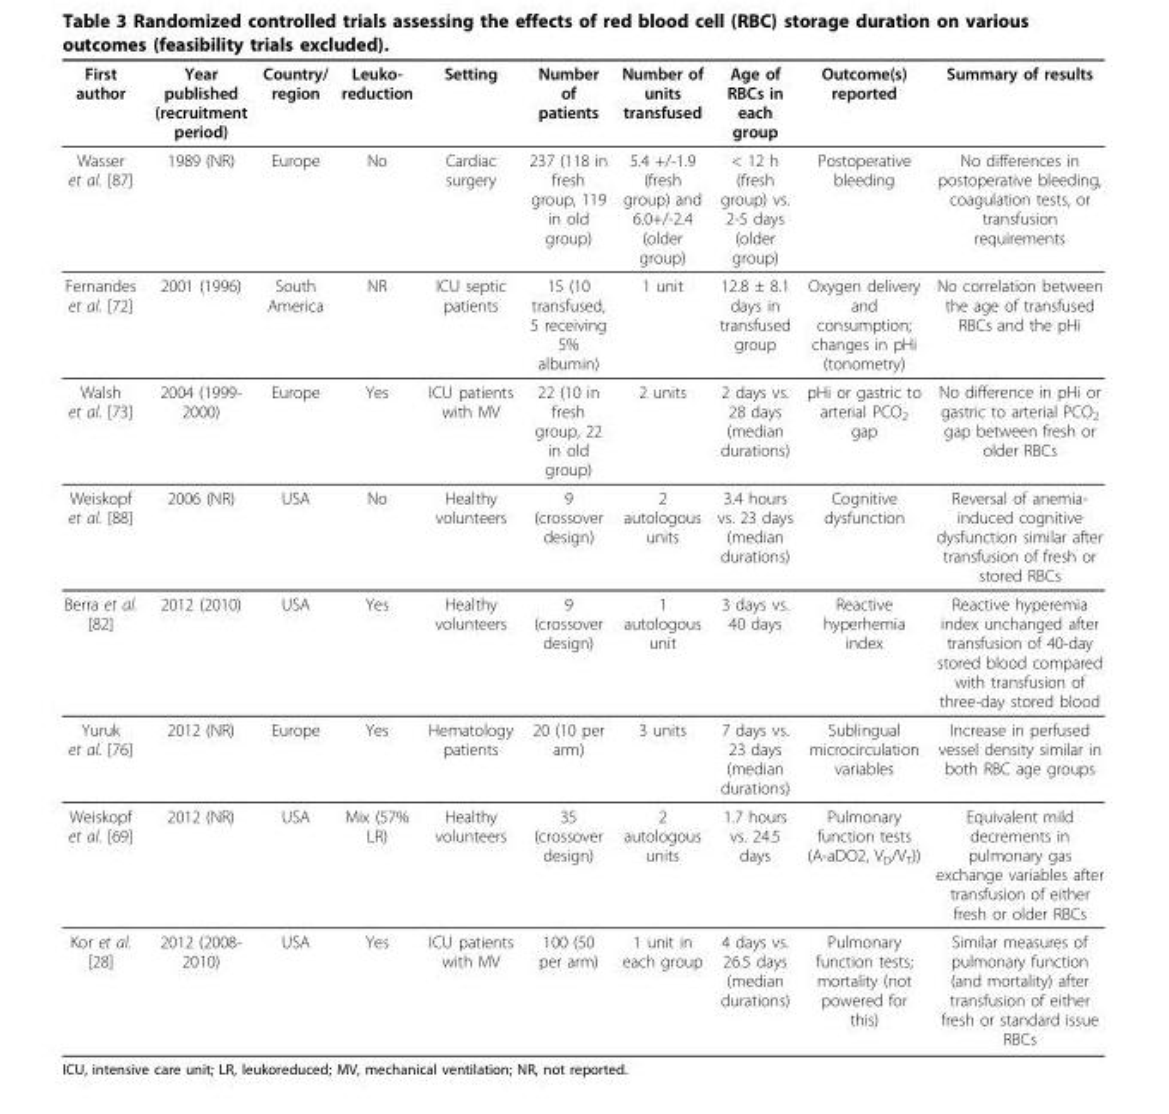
<table><thead><tr><td>First author</td><td>Year published (recruitment period)</td><td>Country/ region</td><td>Leuko- reduction</td><td>Setting</td><td>Number of patients</td><td>Number of units transfused</td><td>Age of RBCs in each group</td><td>Outcome(s) reported</td><td>Summary of results</td></tr></thead><tbody><tr><td>Wasser et al. [87]</td><td>1989 (NR)</td><td>Europe</td><td>No</td><td>Cardiac surgery</td><td>237 (118 in fresh group, 119 in old group)</td><td>5.4 +/-1.9 (fresh group) and 6.0+/-2.4 (older group)</td><td>&lt; 12 h (fresh group) vs. 2-5 days (older group)</td><td>Postoperative bleeding</td><td>No differences in postoperative bleeding, coagulation tests, or transfusion requirements</td></tr><tr><td>Fernandes et al. [72]</td><td>2001 (1996)</td><td>South America</td><td>NR</td><td>ICU septic patients</td><td>15 (10 transfused, 5 receiving 5% albumin)</td><td>1 unit</td><td>12.8 ± 8.1 days in transfused group</td><td>Oxygen delivery and consumption; changes in pHi (tonometry)</td><td>No correlation between the age of transfused RBCs and the pHi</td></tr><tr><td>Walsh et al. [73]</td><td>2004 (1999- 2000)</td><td>Europe</td><td>Yes</td><td>ICU patients with MV</td><td>22 (10 in fresh group, 22 in old group)</td><td>2 units</td><td>2 days vs. 28 days (median durations)</td><td>pHi or gastric to arterial PCO<sub>2</sub> gap</td><td>No difference in pHi or gastric to arterial PCO<sub>2</sub> gap between fresh or older RBCs</td></tr><tr><td>Weiskopf et al. [88]</td><td>2006 (NR)</td><td>USA</td><td>No</td><td>Healthy volunteers</td><td>9 (crossover design)</td><td>2 autologous units</td><td>3.4 hours vs. 23 days (median durations)</td><td>Cognitive dysfunction</td><td>Reversal of anemia- induced cognitive dysfunction similar after transfusion of fresh or stored RBCs</td></tr><tr><td>Berra et al. [82]</td><td>2012 (2010)</td><td>USA</td><td>Yes</td><td>Healthy volunteers</td><td>9 (crossover design)</td><td>1 autologous unit</td><td>3 days vs. 40 days</td><td>Reactive hyperhemia index</td><td>Reactive hyperemia index unchanged after transfusion of 40-day stored blood compared with transfusion of three-day stored blood</td></tr><tr><td>Yuruk et al. [76]</td><td>2012 (NR)</td><td>Europe</td><td>Yes</td><td>Hematology patients</td><td>20 (10 per arm)</td><td>3 units</td><td>7 days vs. 23 days (median durations)</td><td>Sublingual microcirculation variables</td><td>Increase in perfused vessel density similar in both RBC age groups</td></tr><tr><td>Weiskopf et al. [69]</td><td>2012 (NR)</td><td>USA</td><td>Mix (57% LR)</td><td>Healthy volunteers</td><td>35 (crossover design)</td><td>2 autologous units</td><td>1.7 hours vs. 24.5 days</td><td>Pulmonary function tests (A-aDO2, V<sub>D</sub>/V<sub>T</sub>))</td><td>Equivalent mild decrements in pulmonary gas exchange variables after transfusion of either fresh or older RBCs</td></tr><tr><td>Kor et al. [28]</td><td>2012 (2008- 2010)</td><td>USA</td><td>Yes</td><td>ICU patients with MV</td><td>100 (50 per arm)</td><td>1 unit in each group</td><td>4 days vs. 26.5 days (median durations)</td><td>Pulmonary function tests; mortality (not powered for this)</td><td>Similar measures of pulmonary function (and mortality) after transfusion of either fresh or standard issue RBCs</td></tr></tbody></table>